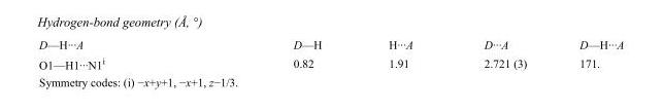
<table><tbody><tr><td>D—H···A</td><td>D—H</td><td>H···A</td><td>D···A</td><td>D—H···A</td></tr><tr><td>O1—H1···N1<sup>i</sup></td><td>0.82</td><td>1.91</td><td>2.721 (3)</td><td>171.</td></tr></tbody></table>